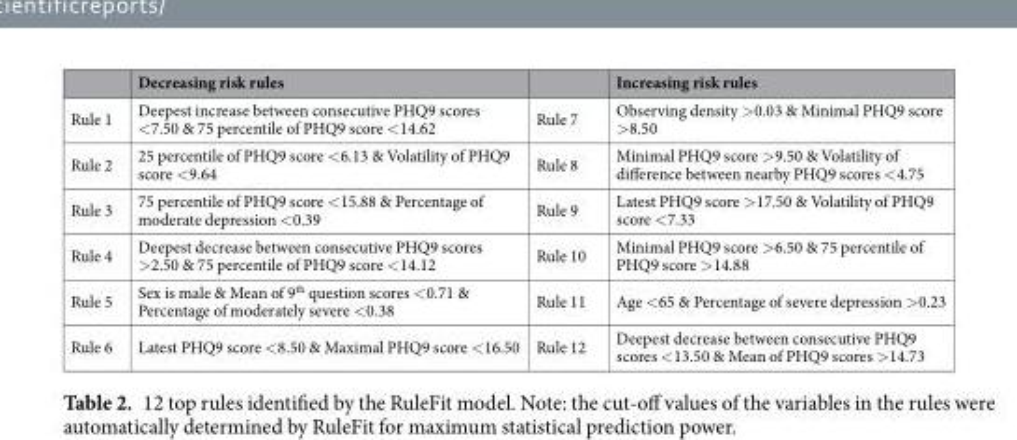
<table><thead><tr><td></td><td>Decreasing risk rules</td><td></td><td>Increasing risk rules</td></tr></thead><tbody><tr><td>Rule 1</td><td>Deepest increase between consecutive PHQ9 scores &lt;7.50 &amp; 75 percentile of PHQ9 score &lt;14.62</td><td>Rule 7</td><td>Observing density &gt;0.03 &amp; Minimal PHQ9 score &gt;8.50</td></tr><tr><td>Rule 2</td><td>25 percentile of PHQ9 score &lt;6.13 &amp; Volatility of PHQ9 score &lt;9.64</td><td>Rule 8</td><td>Minimal PHQ9 score &gt;9.50 &amp; Volatility of difference between nearby PHQ9 scores &lt;4.75</td></tr><tr><td>Rule 3</td><td>75 percentile of PHQ9 score &lt;15.88 &amp; Percentage of moderate depression &lt;0.39</td><td>Rule 9</td><td>Latest PHQ9 score &gt;17.50 &amp; Volatility of PHQ9 score &lt;7.33</td></tr><tr><td>Rule 4</td><td>Deepest decrease between consecutive PHQ9 scores &gt;2.50 &amp; 75 percentile of PHQ9 score &lt;14.12</td><td>Rule 10</td><td>Minimal PHQ9 score &gt;6.50 &amp; 75 percentile of PHQ9 score &gt;14.88</td></tr><tr><td>Rule 5</td><td>Sex is male &amp; Mean of 9<sup>th</sup> question scores &lt;0.71 &amp; Percentage of moderately severe &lt;0.38</td><td>Rule 11</td><td>Age &lt;65 &amp; Percentage of severe depression &gt;0.23</td></tr><tr><td>Rule 6</td><td>Latest PHQ9 score &lt;8.50 &amp; Maximal PHQ9 score &lt;16.50</td><td>Rule 12</td><td>Deepest decrease between consecutive PHQ9 scores &lt;13.50 &amp; Mean of PHQ9 scores &gt;14.73</td></tr></tbody></table>